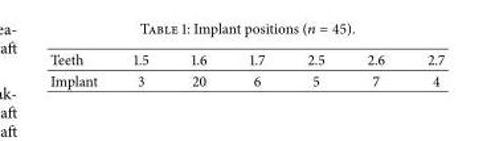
<table><tbody><tr><td>Teeth</td><td>1.5</td><td>1.6</td><td>1.7</td><td>2.5</td><td>2.6</td><td>2.7</td></tr><tr><td>Implant</td><td>3</td><td>20</td><td>6</td><td>5</td><td>7</td><td>4</td></tr></tbody></table>